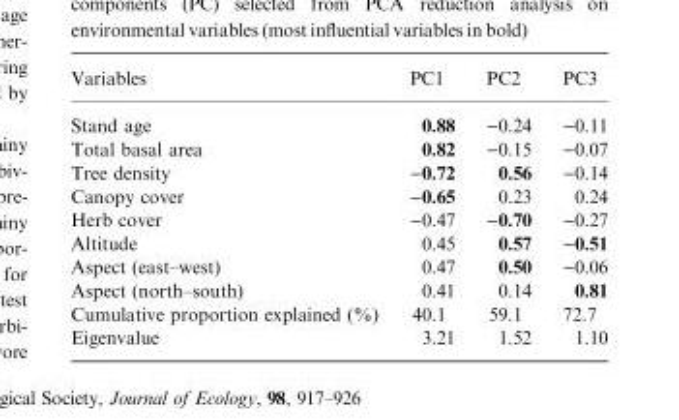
<table><thead><tr><td>Variables</td><td>PC1</td><td>PC2</td><td>PC3</td></tr></thead><tbody><tr><td>Stand age</td><td>0.88</td><td>−0.24</td><td>−0.11</td></tr><tr><td>Total basal area</td><td>0.82</td><td>−0.15</td><td>−0.07</td></tr><tr><td>Tree density</td><td>−0.72</td><td>0.56</td><td>−0.14</td></tr><tr><td>Canopy cover</td><td>−0.65</td><td>0.23</td><td>0.24</td></tr><tr><td>Herb cover</td><td>−0.47</td><td>−0.70</td><td>−0.27</td></tr><tr><td>Altitude</td><td>0.45</td><td>0.57</td><td>−0.51</td></tr><tr><td>Aspect (east–west)</td><td>0.47</td><td>0.50</td><td>−0.06</td></tr><tr><td>Aspect (north–south)</td><td>0.41</td><td>0.14</td><td>0.81</td></tr><tr><td>Cumulative proportion explained (%)</td><td>40.1</td><td>59.1</td><td>72.7</td></tr><tr><td>Eigenvalue</td><td>3.21</td><td>1.52</td><td>1.10</td></tr></tbody></table>